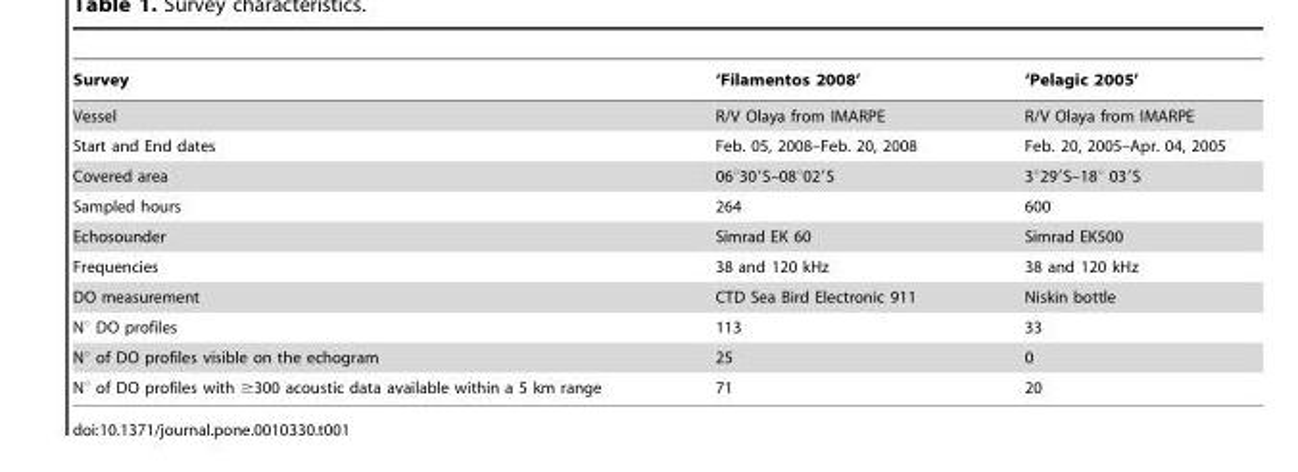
<table><thead><tr><td>Survey</td><td>‘Filamentos 2008’</td><td>‘Pelagic 2005’</td></tr></thead><tbody><tr><td>Vessel</td><td>R/V Olaya from IMARPE</td><td>R/V Olaya from IMARPE</td></tr><tr><td>Start and End dates</td><td>Feb. 05, 2008–Feb. 20, 2008</td><td>Feb. 20, 2005–Apr. 04, 2005</td></tr><tr><td>Covered area</td><td>06°30′S–08°02′S</td><td>3°29′S–18° 03′S</td></tr><tr><td>Sampled hours</td><td>264</td><td>600</td></tr><tr><td>Echosounder</td><td>Simrad EK 60</td><td>Simrad EK500</td></tr><tr><td>Frequencies</td><td>38 and 120 kHz</td><td>38 and 120 kHz</td></tr><tr><td>DO measurement</td><td>CTD Sea Bird Electronic 911</td><td>Niskin bottle</td></tr><tr><td>N° DO profiles</td><td>113</td><td>33</td></tr><tr><td>N° of DO profiles visible on the echogram</td><td>25</td><td>0</td></tr><tr><td>N° of DO profiles with ≥300 acoustic data available within a 5 km range</td><td>71</td><td>20</td></tr></tbody></table>